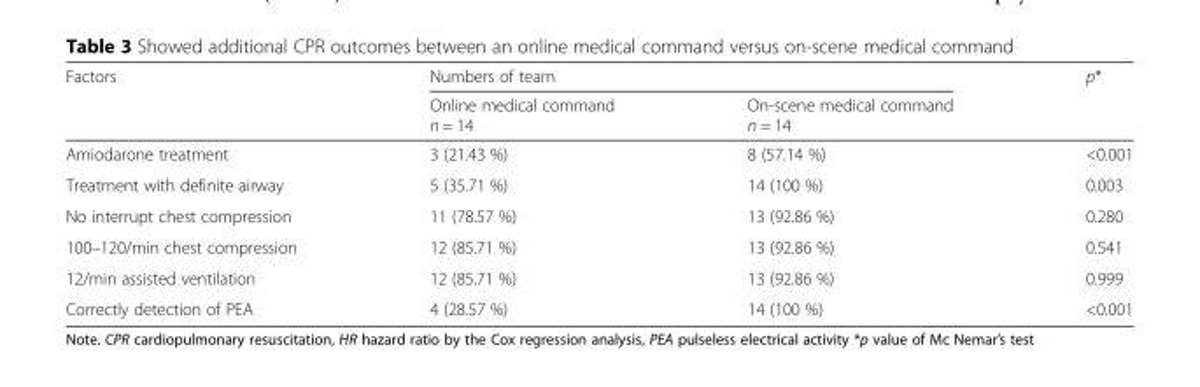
<table><thead><tr><td rowspan="2">Factors</td><td colspan="2">Numbers of team</td><td rowspan="2">p*</td></tr><tr><td>Online medical command n = 14</td><td>On-scene medical command n = 14</td></tr></thead><tbody><tr><td>Amiodarone treatment</td><td>3 (21.43 %)</td><td>8 (57.14 %)</td><td>&lt;0.001</td></tr><tr><td>Treatment with definite airway</td><td>5 (35.71 %)</td><td>14 (100 %)</td><td>0.003</td></tr><tr><td>No interrupt chest compression</td><td>11 (78.57 %)</td><td>13 (92.86 %)</td><td>0.280</td></tr><tr><td>100–120/min chest compression</td><td>12 (85.71 %)</td><td>13 (92.86 %)</td><td>0.541</td></tr><tr><td>12/min assisted ventilation</td><td>12 (85.71 %)</td><td>13 (92.86 %)</td><td>0.999</td></tr><tr><td>Correctly detection of PEA</td><td>4 (28.57 %)</td><td>14 (100 %)</td><td>&lt;0.001</td></tr></tbody></table>